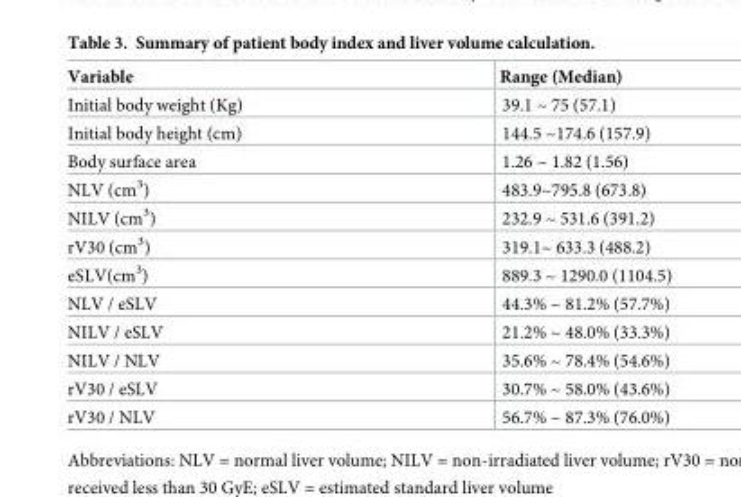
<table><thead><tr><td>Variable</td><td>Range (Median)</td></tr></thead><tbody><tr><td>Initial body weight (Kg)</td><td>39.1 ~ 75 (57.1)</td></tr><tr><td>Initial body height (cm)</td><td>144.5 ~174.6 (157.9)</td></tr><tr><td>Body surface area</td><td>1.26 ~ 1.82 (1.56)</td></tr><tr><td>NLV (cm<sup>3</sup>)</td><td>483.9~795.8 (673.8)</td></tr><tr><td>NILV (cm<sup>3</sup>)</td><td>232.9 ~ 531.6 (391.2)</td></tr><tr><td>rV30 (cm<sup>3</sup>)</td><td>319.1~ 633.3 (488.2)</td></tr><tr><td>eSLV(cm<sup>3</sup>)</td><td>889.3 ~ 1290.0 (1104.5)</td></tr><tr><td>NLV / eSLV</td><td>44.3% ~ 81.2% (57.7%)</td></tr><tr><td>NILV / eSLV</td><td>21.2% ~ 48.0% (33.3%)</td></tr><tr><td>NILV / NLV</td><td>35.6% ~ 78.4% (54.6%)</td></tr><tr><td>rV30 / eSLV</td><td>30.7% ~ 58.0% (43.6%)</td></tr><tr><td>rV30 / NLV</td><td>56.7% ~ 87.3% (76.0%)</td></tr></tbody></table>